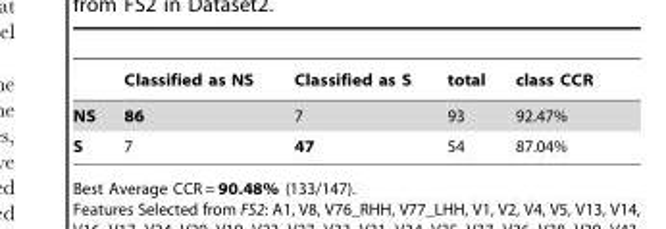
<table><thead><tr><td></td><td>Classified as NS</td><td>Classified as S</td><td>total</td><td>class CCR</td></tr></thead><tbody><tr><td>NS</td><td>86</td><td>7</td><td>93</td><td>92.47%</td></tr><tr><td>S</td><td>7</td><td>47</td><td>54</td><td>87.04%</td></tr></tbody></table>